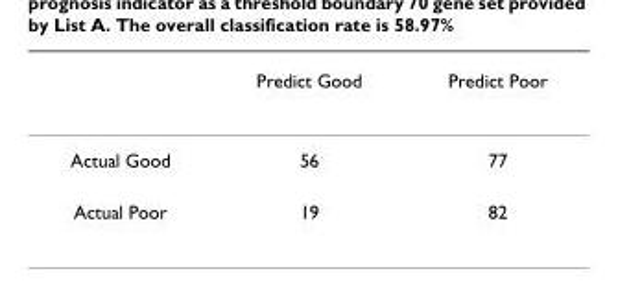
<table><thead><tr><td></td><td>Predict Good</td><td>Predict Poor</td></tr></thead><tbody><tr><td>Actual Good</td><td>56</td><td>77</td></tr><tr><td>Actual Poor</td><td>19</td><td>82</td></tr></tbody></table>